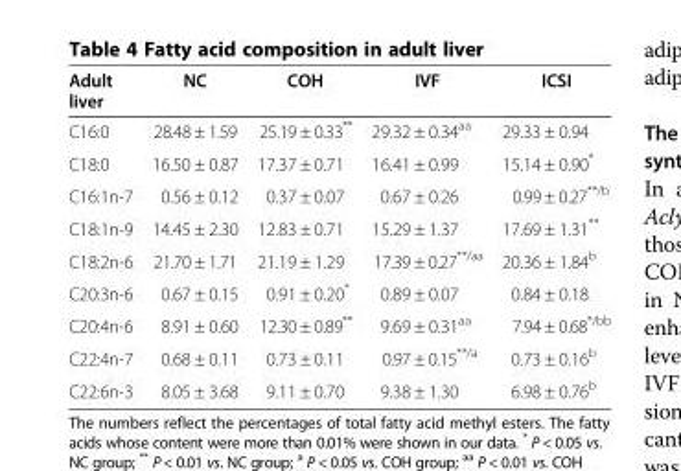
<table><thead><tr><td>Adult liver</td><td>NC</td><td>COH</td><td>IVF</td><td>ICSI</td></tr></thead><tbody><tr><td>C16:0</td><td>28.48 ± 1.59</td><td>25.19 ± 0.33**</td><td>29.32 ± 0.34<sup>aa</sup></td><td>29.33 ± 0.94</td></tr><tr><td>C18:0</td><td>16.50 ± 0.87</td><td>17.37 ± 0.71</td><td>16.41 ± 0.99</td><td>15.14 ± 0.90*</td></tr><tr><td>C16:1n-7</td><td>0.56 ± 0.12</td><td>0.37 ± 0.07</td><td>0.67 ± 0.26</td><td>0.99 ± 0.27<sup>**/b</sup></td></tr><tr><td>C18:1n-9</td><td>14.45 ± 2.30</td><td>12.83 ± 0.71</td><td>15.29 ± 1.37</td><td>17.69 ± 1.31**</td></tr><tr><td>C18:2n-6</td><td>21.70 ± 1.71</td><td>21.19 ± 1.29</td><td>17.39 ± 0.27<sup>**/aa</sup></td><td>20.36 ± 1.84<sup>b</sup></td></tr><tr><td>C20:3n-6</td><td>0.67 ± 0.15</td><td>0.91 ± 0.20*</td><td>0.89 ± 0.07</td><td>0.84 ± 0.18</td></tr><tr><td>C20:4n-6</td><td>8.91 ± 0.60</td><td>12.30 ± 0.89**</td><td>9.69 ± 0.31<sup>aa</sup></td><td>7.94 ± 0.68<sup>*/bb</sup></td></tr><tr><td>C22:4n-7</td><td>0.68 ± 0.11</td><td>0.73 ± 0.11</td><td>0.97 ± 0.15<sup>**/a</sup></td><td>0.73 ± 0.16<sup>b</sup></td></tr><tr><td>C22:6n-3</td><td>8.05 ± 3.68</td><td>9.11 ± 0.70</td><td>9.38 ± 1.30</td><td>6.98 ± 0.76<sup>b</sup></td></tr></tbody></table>